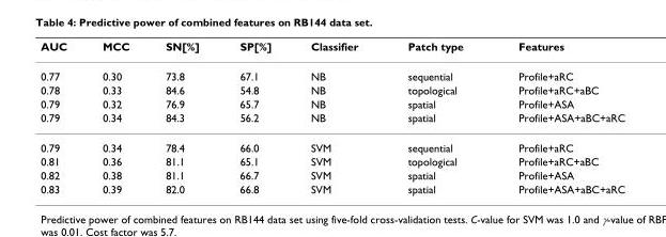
<table><thead><tr><td>AUC</td><td>MCC</td><td>SN[%]</td><td>SP[%]</td><td>Classifier</td><td>Patch type</td><td>Features</td></tr></thead><tbody><tr><td>0.77</td><td>0.30</td><td>73.8</td><td>67.1</td><td>NB</td><td>sequential</td><td>Profile+aRC</td></tr><tr><td>0.78</td><td>0.33</td><td>84.6</td><td>54.8</td><td>NB</td><td>topological</td><td>Profile+aRC+aBC</td></tr><tr><td>0.79</td><td>0.32</td><td>76.9</td><td>65.7</td><td>NB</td><td>spatial</td><td>Profile+ASA</td></tr><tr><td>0.79</td><td>0.34</td><td>84.3</td><td>56.2</td><td>NB</td><td>spatial</td><td>Profile+ASA+aBC+aRC</td></tr><tr><td>0.79</td><td>0.34</td><td>78.4</td><td>66.0</td><td>SVM</td><td>sequential</td><td>Profile+aRC</td></tr><tr><td>0.81</td><td>0.36</td><td>81.1</td><td>65.1</td><td>SVM</td><td>topological</td><td>Profile+aRC+aBC</td></tr><tr><td>0.82</td><td>0.38</td><td>81.1</td><td>66.7</td><td>SVM</td><td>spatial</td><td>Profile+ASA</td></tr><tr><td>0.83</td><td>0.39</td><td>82.0</td><td>66.8</td><td>SVM</td><td>spatial</td><td>Profile+ASA+aBC+aRC</td></tr></tbody></table>